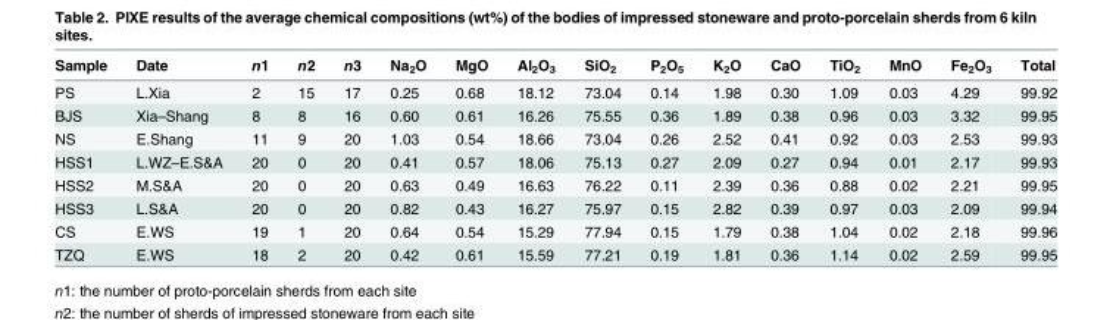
<table><thead><tr><td>Sample</td><td>Date</td><td>n1</td><td>n2</td><td>n3</td><td>Na<sub>2</sub>O</td><td>MgO</td><td>Al<sub>2</sub>O<sub>3</sub></td><td>SiO<sub>2</sub></td><td>P<sub>2</sub>O<sub>5</sub></td><td>K<sub>2</sub>O</td><td>CaO</td><td>TiO<sub>2</sub></td><td>MnO</td><td>Fe<sub>2</sub>O<sub>3</sub></td><td>Total</td></tr></thead><tbody><tr><td>PS</td><td>L.Xia</td><td>2</td><td>15</td><td>17</td><td>0.25</td><td>0.68</td><td>18.12</td><td>73.04</td><td>0.14</td><td>1.98</td><td>0.30</td><td>1.09</td><td>0.03</td><td>4.29</td><td>99.92</td></tr><tr><td>BJS</td><td>Xia–Shang</td><td>8</td><td>8</td><td>16</td><td>0.60</td><td>0.61</td><td>16.26</td><td>75.55</td><td>0.36</td><td>1.89</td><td>0.38</td><td>0.96</td><td>0.03</td><td>3.32</td><td>99.95</td></tr><tr><td>NS</td><td>E.Shang</td><td>11</td><td>9</td><td>20</td><td>1.03</td><td>0.54</td><td>18.66</td><td>73.04</td><td>0.26</td><td>2.52</td><td>0.41</td><td>0.92</td><td>0.03</td><td>2.53</td><td>99.93</td></tr><tr><td>HSS1</td><td>L.WZ–E.S&amp;A</td><td>20</td><td>0</td><td>20</td><td>0.41</td><td>0.57</td><td>18.06</td><td>75.13</td><td>0.27</td><td>2.09</td><td>0.27</td><td>0.94</td><td>0.01</td><td>2.17</td><td>99.93</td></tr><tr><td>HSS2</td><td>M.S&amp;A</td><td>20</td><td>0</td><td>20</td><td>0.63</td><td>0.49</td><td>16.63</td><td>76.22</td><td>0.11</td><td>2.39</td><td>0.36</td><td>0.88</td><td>0.02</td><td>2.21</td><td>99.95</td></tr><tr><td>HSS3</td><td>L.S&amp;A</td><td>20</td><td>0</td><td>20</td><td>0.82</td><td>0.43</td><td>16.27</td><td>75.97</td><td>0.15</td><td>2.82</td><td>0.39</td><td>0.97</td><td>0.03</td><td>2.09</td><td>99.94</td></tr><tr><td>CS</td><td>E.WS</td><td>19</td><td>1</td><td>20</td><td>0.64</td><td>0.54</td><td>15.29</td><td>77.94</td><td>0.15</td><td>1.79</td><td>0.38</td><td>1.04</td><td>0.02</td><td>2.18</td><td>99.96</td></tr><tr><td>TZQ</td><td>E.WS</td><td>18</td><td>2</td><td>20</td><td>0.42</td><td>0.61</td><td>15.59</td><td>77.21</td><td>0.19</td><td>1.81</td><td>0.36</td><td>1.14</td><td>0.02</td><td>2.59</td><td>99.95</td></tr></tbody></table>